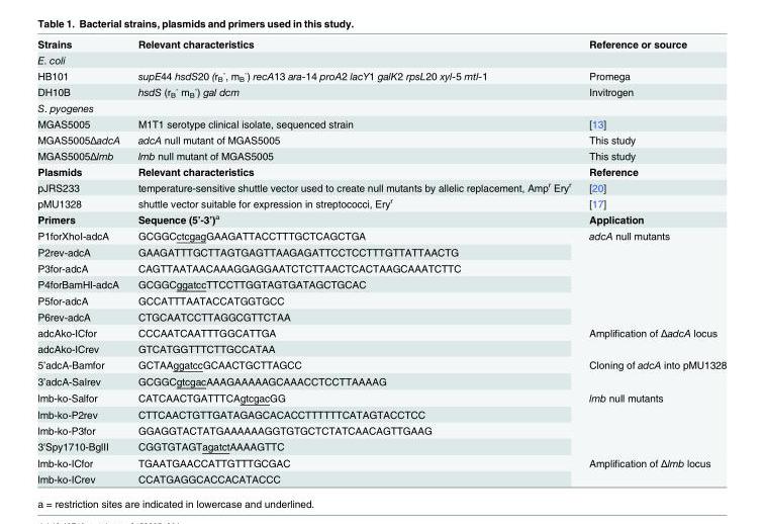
<table><tbody><tr><td>Strains</td><td>Relevant characteristics</td><td>Reference or source</td></tr><tr><td colspan="3">E. coli</td></tr><tr><td>HB101</td><td>supE44 hsdS20 (r<sub>B</sub> <sup>-</sup>, m<sub>B</sub> <sup>-</sup>) recA13 ara-14 proA2 lacY1 galK2 rpsL20 xyl-5 mtl-1</td><td>Promega</td></tr><tr><td>DH10B</td><td>hsdS (r<sub>B</sub> <sup>-</sup> m<sub>B</sub> <sup>-</sup>) gal dcm</td><td>Invitrogen</td></tr><tr><td colspan="3">S. pyogenes</td></tr><tr><td>MGAS5005</td><td>M1T1 serotype clinical isolate, sequenced strain</td><td>[13]</td></tr><tr><td>MGAS5005ΔadcA</td><td>adcA null mutant of MGAS5005</td><td>This study</td></tr><tr><td>MGAS5005Δlmb</td><td>lmb null mutant of MGAS5005</td><td>This study</td></tr><tr><td>Plasmids</td><td>Relevant characteristics</td><td>Reference</td></tr><tr><td>pJRS233</td><td>temperature-sensitive shuttle vector used to create null mutants by allelic replacement, Amp<sup>r</sup> Ery<sup>r</sup></td><td>[20]</td></tr><tr><td>pMU1328</td><td>shuttle vector suitable for expression in streptococci, Ery<sup>r</sup></td><td>[17]</td></tr><tr><td>Primers</td><td>Sequence (5’-3’)<sup>a</sup></td><td>Application</td></tr><tr><td>P1forXhoI-adcA</td><td>GCGGCctcgagGAAGATTACCTTTGCTCAGCTGA</td><td rowspan="6">adcA null mutants</td></tr><tr><td>P2rev-adcA</td><td>GAAGATTTGCTTAGTGAGTTAAGAGATTCCTCCTTTGTTATTAACTG</td></tr><tr><td>P3for-adcA</td><td>CAGTTAATAACAAAGGAGGAATCTCTTAACTCACTAAGCAAATCTTC</td></tr><tr><td>P4forBamHI-adcA</td><td>GCGGCggatccTTCCTTGGTAGTGATAGCTGCAC</td></tr><tr><td>P5for-adcA</td><td>GCCATTTAATACCATGGTGCC</td></tr><tr><td>P6rev-adcA</td><td>CTGCAATCCTTAGGCGTTCTAA</td></tr><tr><td>adcAko-ICfor</td><td>CCCAATCAATTTGGCATTGA</td><td rowspan="2">Amplification of ΔadcA locus</td></tr><tr><td>adcAko-ICrev</td><td>GTCATGGTTTCTTGCCATAA</td></tr><tr><td>5’adcA-Bamfor</td><td>GCTAAggatccGCAACTGCTTAGCC</td><td rowspan="2">Cloning of adcA into pMU1328</td></tr><tr><td>3’adcA-Salrev</td><td>GCGGCgtcgacAAAGAAAAAGCAAACCTCCTTAAAAG</td></tr><tr><td>lmb-ko-Salfor</td><td>CATCAACTGATTTCAgtcgacGG</td><td rowspan="4">lmb null mutants</td></tr><tr><td>lmb-ko-P2rev</td><td>CTTCAACTGTTGATAGAGCACACCTTTTTTCATAGTACCTCC</td></tr><tr><td>lmb-ko-P3for</td><td>GGAGGTACTATGAAAAAAGGTGTGCTCTATCAACAGTTGAAG</td></tr><tr><td>3&#x27;Spy1710-BglII</td><td>CGGTGTAGTagatctAAAAGTTC</td></tr><tr><td>lmb-ko-ICfor</td><td>TGAATGAACCATTGTTTGCGAC</td><td rowspan="2">Amplification of Δlmb locus</td></tr><tr><td>lmb-ko-ICrev</td><td>CCATGAGGCACCACATACCC</td></tr></tbody></table>